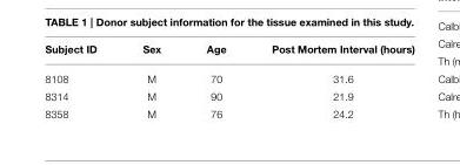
<table><thead><tr><td>Subject ID</td><td>Sex</td><td>Age</td><td>Post Mortem Interval (hours)</td></tr></thead><tbody><tr><td>8108</td><td>M</td><td>70</td><td>31.6</td></tr><tr><td>8314</td><td>M</td><td>90</td><td>21.9</td></tr><tr><td>8358</td><td>M</td><td>76</td><td>24.2</td></tr></tbody></table>